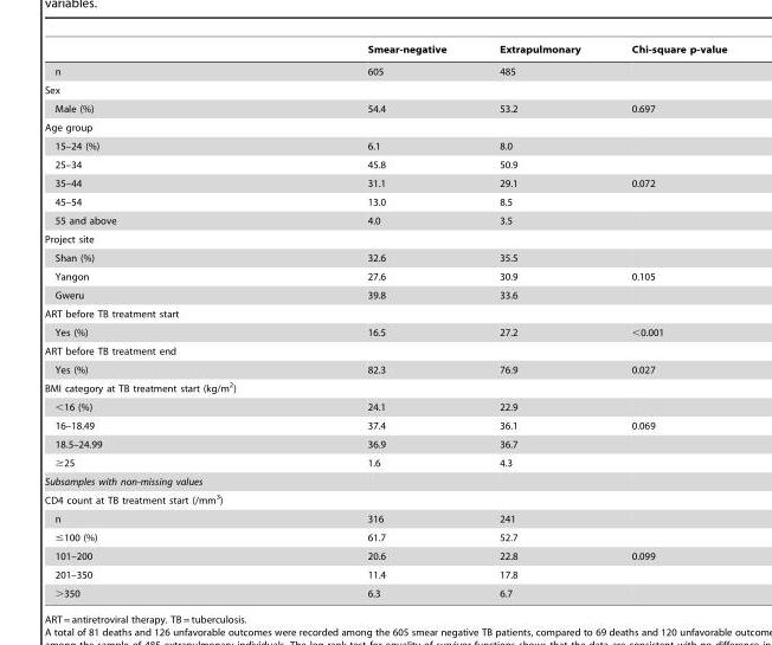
<table><thead><tr><td></td><td>Smear-negative</td><td>Extrapulmonary</td><td>Chi-square p-value</td></tr></thead><tbody><tr><td>n</td><td>605</td><td>485</td><td></td></tr><tr><td colspan="4">Sex</td></tr><tr><td>Male (%)</td><td>54.4</td><td>53.2</td><td>0.697</td></tr><tr><td colspan="4">Age group</td></tr><tr><td>15–24 (%)</td><td>6.1</td><td>8.0</td><td></td></tr><tr><td>25–34</td><td>45.8</td><td>50.9</td><td></td></tr><tr><td>35–44</td><td>31.1</td><td>29.1</td><td>0.072</td></tr><tr><td>45–54</td><td>13.0</td><td>8.5</td><td></td></tr><tr><td>55 and above</td><td>4.0</td><td>3.5</td><td></td></tr><tr><td colspan="4">Project site</td></tr><tr><td>Shan (%)</td><td>32.6</td><td>35.5</td><td></td></tr><tr><td>Yangon</td><td>27.6</td><td>30.9</td><td>0.105</td></tr><tr><td>Gweru</td><td>39.8</td><td>33.6</td><td></td></tr><tr><td colspan="4">ART before TB treatment start</td></tr><tr><td>Yes (%)</td><td>16.5</td><td>27.2</td><td>&lt;0.001</td></tr><tr><td colspan="4">ART before TB treatment end</td></tr><tr><td>Yes (%)</td><td>82.3</td><td>76.9</td><td>0.027</td></tr><tr><td colspan="4">BMI category at TB treatment start (kg/m<sup>2</sup>)</td></tr><tr><td>&lt;16 (%)</td><td>24.1</td><td>22.9</td><td></td></tr><tr><td>16–18.49</td><td>37.4</td><td>36.1</td><td>0.069</td></tr><tr><td>18.5–24.99</td><td>36.9</td><td>36.7</td><td></td></tr><tr><td>≥25</td><td>1.6</td><td>4.3</td><td></td></tr><tr><td colspan="4">Subsamples with non-missing values</td></tr><tr><td colspan="4">CD4 count at TB treatment start (/mm<sup>3</sup>)</td></tr><tr><td>n</td><td>316</td><td>241</td><td></td></tr><tr><td>≤100 (%)</td><td>61.7</td><td>52.7</td><td></td></tr><tr><td>101–200</td><td>20.6</td><td>22.8</td><td>0.099</td></tr><tr><td>201–350</td><td>11.4</td><td>17.8</td><td></td></tr><tr><td>&gt;350</td><td>6.3</td><td>6.7</td><td></td></tr></tbody></table>